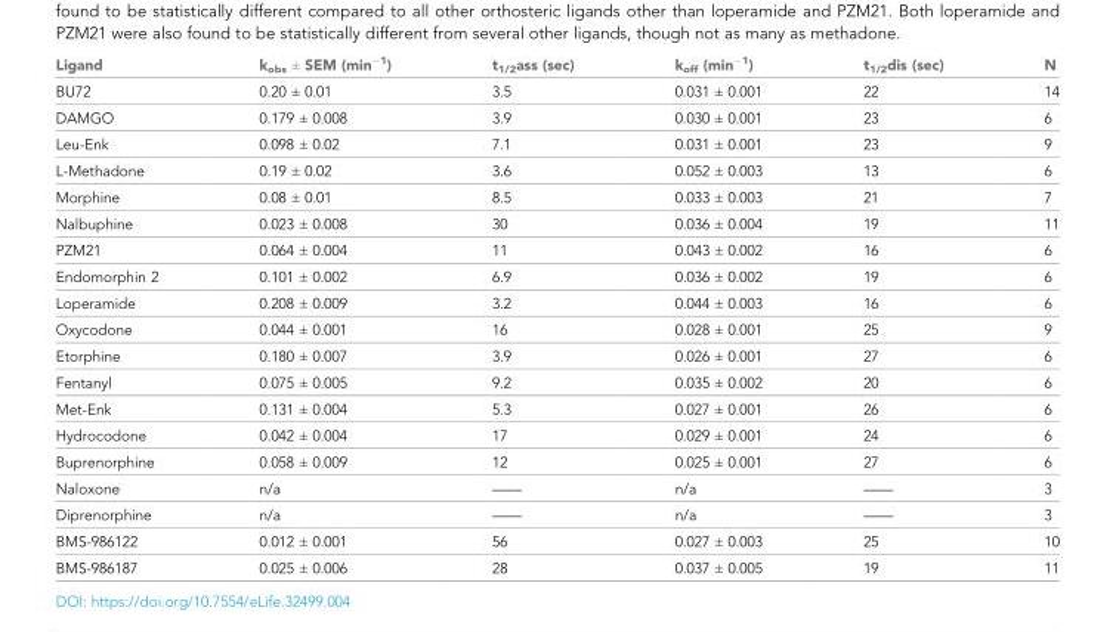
<table><thead><tr><td>Ligand</td><td>k<sub>obs</sub> ± SEM (min<sup>−1</sup>)</td><td>t<sub>1/2</sub>ass (sec)</td><td>k<sub>off</sub> (min<sup>−1</sup>)</td><td>t<sub>1/2</sub>dis (sec)</td><td>N</td></tr></thead><tbody><tr><td>BU72</td><td>0.20 ± 0.01</td><td>3.5</td><td>0.031 ± 0.001</td><td>22</td><td>14</td></tr><tr><td>DAMGO</td><td>0.179 ± 0.008</td><td>3.9</td><td>0.030 ± 0.001</td><td>23</td><td>6</td></tr><tr><td>Leu-Enk</td><td>0.098 ± 0.02</td><td>7.1</td><td>0.031 ± 0.001</td><td>23</td><td>9</td></tr><tr><td>L-Methadone</td><td>0.19 ± 0.02</td><td>3.6</td><td>0.052 ± 0.003</td><td>13</td><td>6</td></tr><tr><td>Morphine</td><td>0.08 ± 0.01</td><td>8.5</td><td>0.033 ± 0.003</td><td>21</td><td>7</td></tr><tr><td>Nalbuphine</td><td>0.023 ± 0.008</td><td>30</td><td>0.036 ± 0.004</td><td>19</td><td>11</td></tr><tr><td>PZM21</td><td>0.064 ± 0.004</td><td>11</td><td>0.043 ± 0.002</td><td>16</td><td>6</td></tr><tr><td>Endomorphin 2</td><td>0.101 ± 0.002</td><td>6.9</td><td>0.036 ± 0.002</td><td>19</td><td>6</td></tr><tr><td>Loperamide</td><td>0.208 ± 0.009</td><td>3.2</td><td>0.044 ± 0.003</td><td>16</td><td>6</td></tr><tr><td>Oxycodone</td><td>0.044 ± 0.001</td><td>16</td><td>0.028 ± 0.001</td><td>25</td><td>9</td></tr><tr><td>Etorphine</td><td>0.180 ± 0.007</td><td>3.9</td><td>0.026 ± 0.001</td><td>27</td><td>6</td></tr><tr><td>Fentanyl</td><td>0.075 ± 0.005</td><td>9.2</td><td>0.035 ± 0.002</td><td>20</td><td>6</td></tr><tr><td>Met-Enk</td><td>0.131 ± 0.004</td><td>5.3</td><td>0.027 ± 0.001</td><td>26</td><td>6</td></tr><tr><td>Hydrocodone</td><td>0.042 ± 0.004</td><td>17</td><td>0.029 ± 0.001</td><td>24</td><td>6</td></tr><tr><td>Buprenorphine</td><td>0.058 ± 0.009</td><td>12</td><td>0.025 ± 0.001</td><td>27</td><td>6</td></tr><tr><td>Naloxone</td><td>n/a</td><td>——</td><td>n/a</td><td>——</td><td>3</td></tr><tr><td>Diprenorphine</td><td>n/a</td><td>——</td><td>n/a</td><td>——</td><td>3</td></tr><tr><td>BMS-986122</td><td>0.012 ± 0.001</td><td>56</td><td>0.027 ± 0.003</td><td>25</td><td>10</td></tr><tr><td>BMS-986187</td><td>0.025 ± 0.006</td><td>28</td><td>0.037 ± 0.005</td><td>19</td><td>11</td></tr></tbody></table>